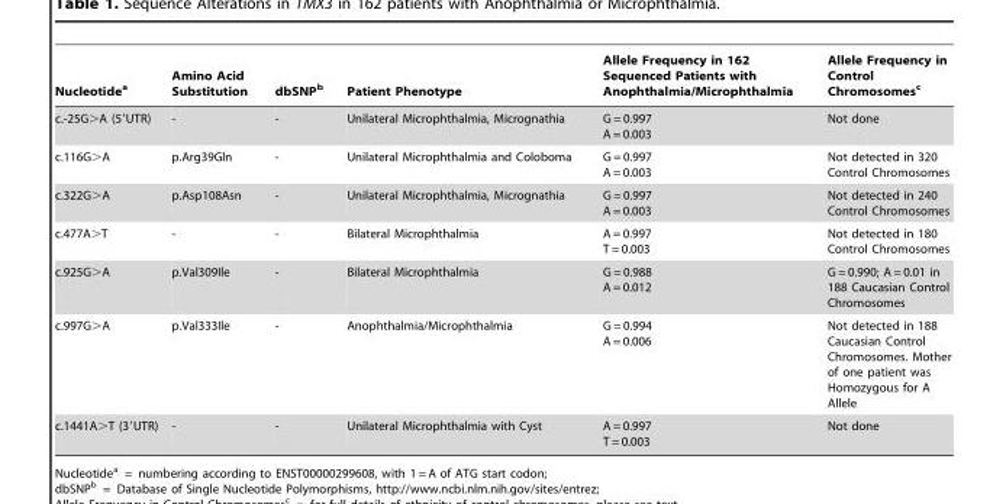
<table><thead><tr><td>Nucleotide<sup>a</sup></td><td>Amino Acid Substitution</td><td>dbSNP<sup>b</sup></td><td>Patient Phenotype</td><td>Allele Frequency in 162 Sequenced Patients with Anophthalmia/Microphthalmia</td><td>Allele Frequency in Control Chromosomes<sup>c</sup></td></tr></thead><tbody><tr><td>c.-25G&gt;A (5′UTR)</td><td>-</td><td>-</td><td>Unilateral Microphthalmia, Micrognathia</td><td>G = 0.997 A = 0.003</td><td>Not done</td></tr><tr><td>c.116G&gt;A</td><td>p.Arg39Gln</td><td>-</td><td>Unilateral Microphthalmia and Coloboma</td><td>G = 0.997 A = 0.003</td><td>Not detected in 320 Control Chromosomes</td></tr><tr><td>c.322G&gt;A</td><td>p.Asp108Asn</td><td>-</td><td>Unilateral Microphthalmia, Micrognathia</td><td>G = 0.997 A = 0.003</td><td>Not detected in 240 Control Chromosomes</td></tr><tr><td>c.477A&gt;T</td><td>-</td><td>-</td><td>Bilateral Microphthalmia</td><td>A = 0.997 T = 0.003</td><td>Not detected in 180 Control Chromosomes</td></tr><tr><td>c.925G&gt;A</td><td>p.Val309Ile</td><td>-</td><td>Bilateral Microphthalmia</td><td>G = 0.988 A = 0.012</td><td>G = 0.990; A = 0.01 in 188 Caucasian Control Chromosomes</td></tr><tr><td>c.997G&gt;A</td><td>p.Val333Ile</td><td>-</td><td>Anophthalmia/Microphthalmia</td><td>G = 0.994 A = 0.006</td><td>Not detected in 188 Caucasian Control Chromosomes. Mother of one patient was Homozygous for A Allele</td></tr><tr><td>c.1441A&gt;T (3′UTR)</td><td>-</td><td>-</td><td>Unilateral Microphthalmia with Cyst</td><td>A = 0.997 T = 0.003</td><td>Not done</td></tr></tbody></table>